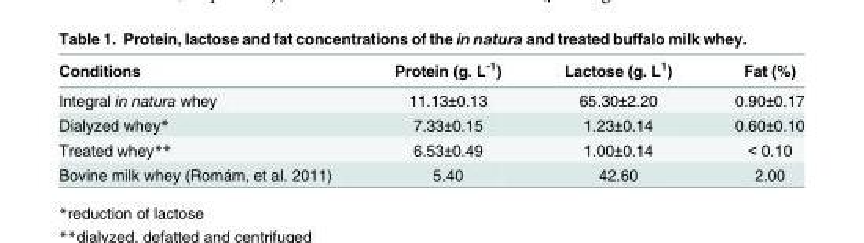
<table><thead><tr><td>Conditions</td><td>Protein (g. L<sup>-1</sup>)</td><td>Lactose (g. L<sup>1</sup>)</td><td>Fat (%)</td></tr></thead><tbody><tr><td>Integral in natura whey</td><td>11.13±0.13</td><td>65.30±2.20</td><td>0.90±0.17</td></tr><tr><td>Dialyzed whey*</td><td>7.33±0.15</td><td>1.23±0.14</td><td>0.60±0.10</td></tr><tr><td>Treated whey**</td><td>6.53±0.49</td><td>1.00±0.14</td><td>&lt; 0.10</td></tr><tr><td>Bovine milk whey (Romám, et al. 2011)</td><td>5.40</td><td>42.60</td><td>2.00</td></tr></tbody></table>